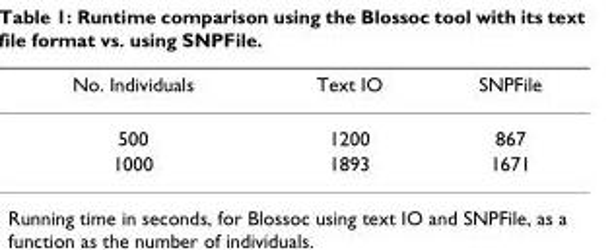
<table><thead><tr><td>No. Individuals</td><td>Text IO</td><td>SNPFile</td></tr></thead><tbody><tr><td>500</td><td>1200</td><td>867</td></tr><tr><td>1000</td><td>1893</td><td>1671</td></tr></tbody></table>